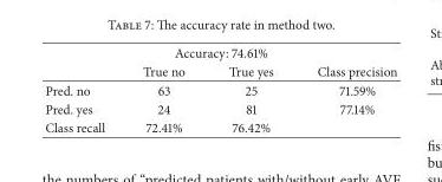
<table><thead><tr><td colspan="4">Accuracy: 74.61%</td></tr><tr><td></td><td>True no</td><td>True yes</td><td>Class precision</td></tr></thead><tbody><tr><td>Pred. no</td><td>63</td><td>25</td><td>71.59%</td></tr><tr><td>Pred. yes</td><td>24</td><td>81</td><td>77.14%</td></tr><tr><td>Class recall</td><td>72.41%</td><td>76.42%</td><td></td></tr></tbody></table>